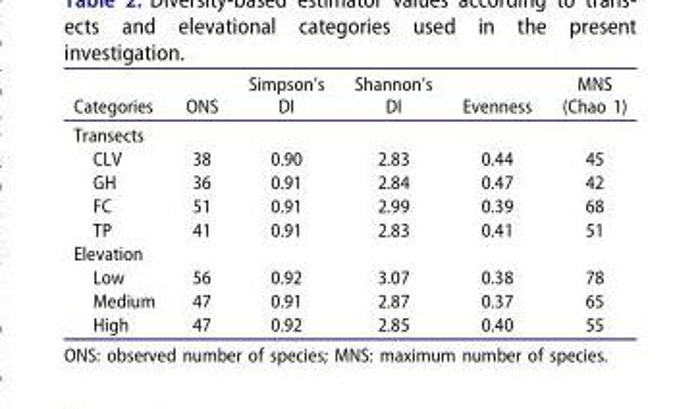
<table><thead><tr><td>Categories</td><td>ONS</td><td>Simpson’s DI</td><td>Shannon’s DI</td><td>Evenness</td><td>MNS (Chao 1)</td></tr></thead><tbody><tr><td colspan="6">Transects</td></tr><tr><td>CLV</td><td>38</td><td>0.90</td><td>2.83</td><td>0.44</td><td>45</td></tr><tr><td>GH</td><td>36</td><td>0.91</td><td>2.84</td><td>0.47</td><td>42</td></tr><tr><td>FC</td><td>51</td><td>0.91</td><td>2.99</td><td>0.39</td><td>68</td></tr><tr><td>TP</td><td>41</td><td>0.91</td><td>2.83</td><td>0.41</td><td>51</td></tr><tr><td colspan="6">Elevation</td></tr><tr><td>Low</td><td>56</td><td>0.92</td><td>3.07</td><td>0.38</td><td>78</td></tr><tr><td>Medium</td><td>47</td><td>0.91</td><td>2.87</td><td>0.37</td><td>65</td></tr><tr><td>High</td><td>47</td><td>0.92</td><td>2.85</td><td>0.40</td><td>55</td></tr></tbody></table>